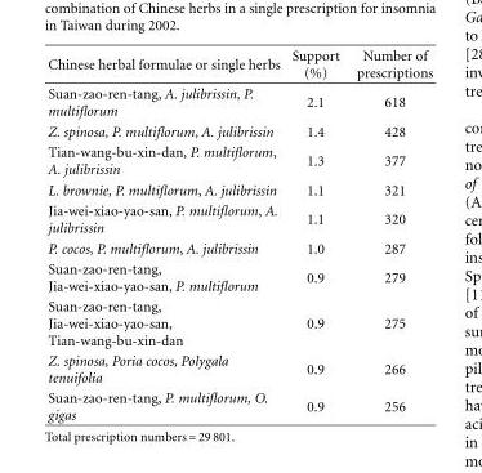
<table><thead><tr><td>Chinese herbal formulae or single herbs</td><td>Support (%)</td><td>Number of prescriptions</td></tr></thead><tbody><tr><td>Suan-zao-ren-tang, A. julibrissin, P. multiflorum</td><td>2.1</td><td>618</td></tr><tr><td>Z. spinosa, P. multiflorum, A. julibrissin</td><td>1.4</td><td>428</td></tr><tr><td>Tian-wang-bu-xin-dan, P. multiflorum, A. julibrissin</td><td>1.3</td><td>377</td></tr><tr><td>L. brownie, P. multiflorum, A. julibrissin</td><td>1.1</td><td>321</td></tr><tr><td>Jia-wei-xiao-yao-san, P. multiflorum, A. julibrissin</td><td>1.1</td><td>320</td></tr><tr><td>P. cocos, P. multiflorum, A. julibrissin</td><td>1.0</td><td>287</td></tr><tr><td>Suan-zao-ren-tang, Jia-wei-xiao-yao-san, P. multiflorum</td><td>0.9</td><td>279</td></tr><tr><td>Suan-zao-ren-tang, Jia-wei-xiao-yao-san, Tian-wang-bu-xin-dan</td><td>0.9</td><td>275</td></tr><tr><td>Z. spinosa, Poria cocos, Polygala tenuifolia</td><td>0.9</td><td>266</td></tr><tr><td>Suan-zao-ren-tang, P. multiflorum, O. gigas</td><td>0.9</td><td>256</td></tr></tbody></table>